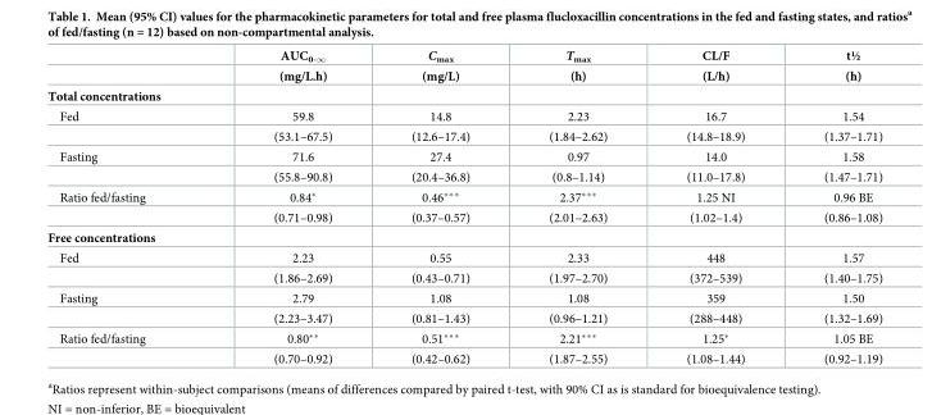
<table><thead><tr><td rowspan="2"></td><td rowspan="2">AUC<sub>0-∞</sub> (mg/L.h)</td><td rowspan="2">C<sub>max</sub> (mg/L)</td><td rowspan="2">T<sub>max</sub> (h)</td><td rowspan="2">CL/F (L/h)</td><td rowspan="2">t½ (h)</td></tr><tr></tr></thead><tbody><tr><td colspan="6">Total concentrations</td></tr><tr><td rowspan="2">Fed</td><td>59.8</td><td>14.8</td><td>2.23</td><td>16.7</td><td>1.54</td></tr><tr><td>(53.1–67.5)</td><td>(12.6–17.4)</td><td>(1.84–2.62)</td><td>(14.8–18.9)</td><td>(1.37–1.71)</td></tr><tr><td rowspan="2">Fasting</td><td>71.6</td><td>27.4</td><td>0.97</td><td>14.0</td><td>1.58</td></tr><tr><td>(55.8–90.8)</td><td>(20.4–36.8)</td><td>(0.8–1.14)</td><td>(11.0–17.8)</td><td>(1.47–1.71)</td></tr><tr><td rowspan="2">Ratio fed/fasting</td><td>0.84*</td><td>0.46***</td><td>2.37***</td><td>1.25 NI</td><td>0.96 BE</td></tr><tr><td>(0.71–0.98)</td><td>(0.37–0.57)</td><td>(2.01–2.63)</td><td>(1.02–1.4)</td><td>(0.86–1.08)</td></tr><tr><td colspan="6">Free concentrations</td></tr><tr><td rowspan="2">Fed</td><td>2.23</td><td>0.55</td><td>2.33</td><td>448</td><td>1.57</td></tr><tr><td>(1.86–2.69)</td><td>(0.43–0.71)</td><td>(1.97–2.70)</td><td>(372–539)</td><td>(1.40–1.75)</td></tr><tr><td rowspan="2">Fasting</td><td>2.79</td><td>1.08</td><td>1.08</td><td>359</td><td>1.50</td></tr><tr><td>(2.23–3.47)</td><td>(0.81–1.43)</td><td>(0.96–1.21)</td><td>(288–448)</td><td>(1.32–1.69)</td></tr><tr><td rowspan="2">Ratio fed/fasting</td><td>0.80**</td><td>0.51***</td><td>2.21***</td><td>1.25*</td><td>1.05 BE</td></tr><tr><td>(0.70–0.92)</td><td>(0.42–0.62)</td><td>(1.87–2.55)</td><td>(1.08–1.44)</td><td>(0.92–1.19)</td></tr></tbody></table>